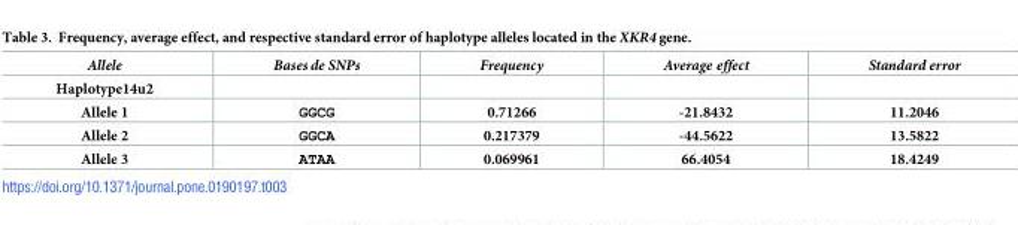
<table><thead><tr><td>Allele</td><td>Bases de SNPs</td><td>Frequency</td><td>Average effect</td><td>Standard error</td></tr></thead><tbody><tr><td colspan="5">Haplotype14u2</td></tr><tr><td>Allele 1</td><td>GGCG</td><td>0.71266</td><td>-21.8432</td><td>11.2046</td></tr><tr><td>Allele 2</td><td>GGCA</td><td>0.217379</td><td>-44.5622</td><td>13.5822</td></tr><tr><td>Allele 3</td><td>ATAA</td><td>0.069961</td><td>66.4054</td><td>18.4249</td></tr></tbody></table>